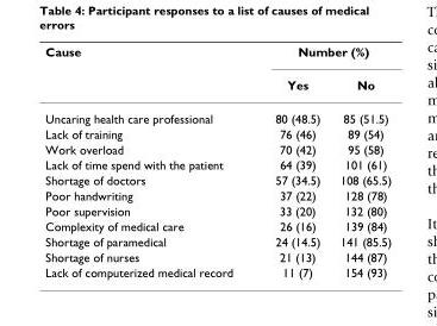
<table><thead><tr><td rowspan="2">Cause</td><td colspan="2">Number (%)</td></tr><tr><td>Yes</td><td>No</td></tr></thead><tbody><tr><td>Uncaring health care professional</td><td>80 (48.5)</td><td>85 (51.5)</td></tr><tr><td>Lack of training</td><td>76 (46)</td><td>89 (54)</td></tr><tr><td>Work overload</td><td>70 (42)</td><td>95 (58)</td></tr><tr><td>Lack of time spend with the patient</td><td>64 (39)</td><td>101 (61)</td></tr><tr><td>Shortage of doctors</td><td>57 (34.5)</td><td>108 (65.5)</td></tr><tr><td>Poor handwriting</td><td>37 (22)</td><td>128 (78)</td></tr><tr><td>Poor supervision</td><td>33 (20)</td><td>132 (80)</td></tr><tr><td>Complexity of medical care</td><td>26 (16)</td><td>139 (84)</td></tr><tr><td>Shortage of paramedical</td><td>24 (14.5)</td><td>141 (85.5)</td></tr><tr><td>Shortage of nurses</td><td>21 (13)</td><td>144 (87)</td></tr><tr><td>Lack of computerized medical record</td><td>11 (7)</td><td>154 (93)</td></tr></tbody></table>